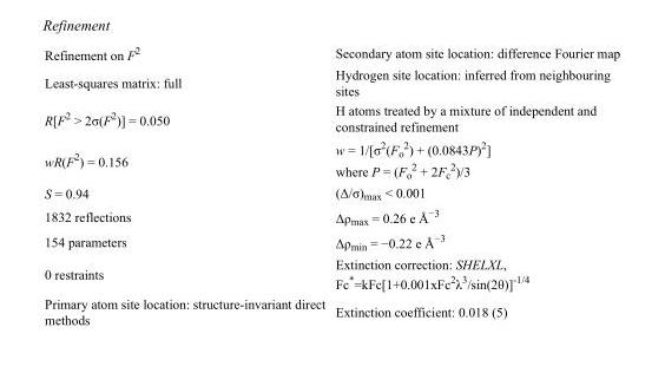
<table><tbody><tr><td>Refinement on F<sup>2</sup></td><td>Secondary atom site location: difference Fourier map</td></tr><tr><td>Least-squares matrix: full</td><td>Hydrogen site location: inferred from neighbouring sites</td></tr><tr><td>R[F<sup>2</sup> &gt; 2σ(F<sup>2</sup>)] = 0.050</td><td>H atoms treated by a mixture of independent and constrained refinement</td></tr><tr><td>wR(F<sup>2</sup>) = 0.156</td><td>w = 1/[σ<sup>2</sup>(F<sub>o</sub> <sup>2</sup>) + (0.0843P)<sup>2</sup>] where P = (F<sub>o</sub> <sup>2</sup> + 2F<sub>c</sub> <sup>2</sup>)/3</td></tr><tr><td>S = 0.94</td><td>(Δ/σ)<sub>max</sub> &lt; 0.001</td></tr><tr><td>1832 reflections</td><td>Δρ<sub>max</sub> = 0.26 e Å<sup>−3</sup></td></tr><tr><td>154 parameters</td><td>Δρ<sub>min</sub> = −0.22 e Å<sup>−3</sup></td></tr><tr><td>0 restraints</td><td>Extinction correction: SHELXL, Fc*=kFc[1+0.001xFc<sup>2</sup>λ<sup>3</sup>/sin(2θ)]<sup>-1/4</sup></td></tr><tr><td>Primary atom site location: structure-invariant direct methods</td><td>Extinction coefficient: 0.018 (5)</td></tr></tbody></table>